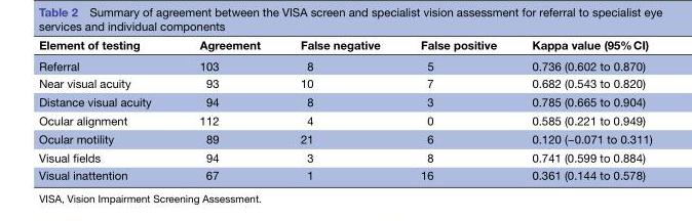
<table><thead><tr><td>Element of testing</td><td>Agreement</td><td>False negative</td><td>False positive</td><td>Kappa value (95% CI)</td></tr></thead><tbody><tr><td>Referral</td><td>103</td><td>8</td><td>5</td><td>0.736 (0.602 to 0.870)</td></tr><tr><td>Near visual acuity</td><td>93</td><td>10</td><td>7</td><td>0.682 (0.543 to 0.820)</td></tr><tr><td>Distance visual acuity</td><td>94</td><td>8</td><td>3</td><td>0.785 (0.665 to 0.904)</td></tr><tr><td>Ocular alignment</td><td>112</td><td>4</td><td>0</td><td>0.585 (0.221 to 0.949)</td></tr><tr><td>Ocular motility</td><td>89</td><td>21</td><td>6</td><td>0.120 (−0.071 to 0.311)</td></tr><tr><td>Visual fields</td><td>94</td><td>3</td><td>8</td><td>0.741 (0.599 to 0.884)</td></tr><tr><td>Visual inattention</td><td>67</td><td>1</td><td>16</td><td>0.361 (0.144 to 0.578)</td></tr></tbody></table>